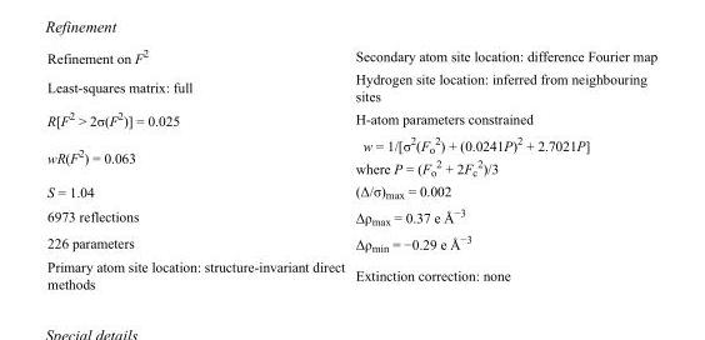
<table><tbody><tr><td>Refinement on F<sup>2</sup></td><td>Secondary atom site location: difference Fourier map</td></tr><tr><td>Least-squares matrix: full</td><td>Hydrogen site location: inferred from neighbouring sites</td></tr><tr><td>R[F<sup>2</sup> &gt; 2σ(F<sup>2</sup>)] = 0.025</td><td>H-atom parameters constrained</td></tr><tr><td>wR(F<sup>2</sup>) = 0.063</td><td>w = 1/[σ<sup>2</sup>(F<sub>o</sub> <sup>2</sup>) + (0.0241P)<sup>2</sup> + 2.7021P] where P = (F<sub>o</sub> <sup>2</sup> + 2F<sub>c</sub> <sup>2</sup>)/3</td></tr><tr><td>S = 1.04</td><td>(Δ/σ)<sub>max</sub> = 0.002</td></tr><tr><td>6973 reflections</td><td>Δρ<sub>max</sub> = 0.37 e Å<sup>−3</sup></td></tr><tr><td>226 parameters</td><td>Δρ<sub>min</sub> = −0.29 e Å<sup>−3</sup></td></tr><tr><td>Primary atom site location: structure-invariant direct methods</td><td>Extinction correction: none</td></tr></tbody></table>